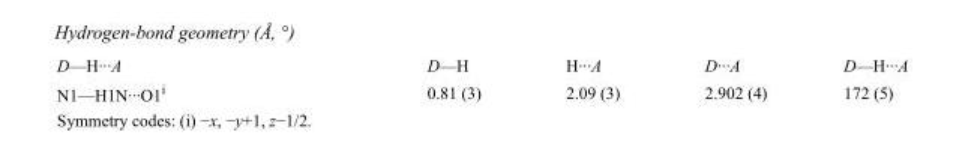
<table><tbody><tr><td>D—H···A</td><td>D—H</td><td>H···A</td><td>D···A</td><td>D—H···A</td></tr><tr><td>N1—H1N···O1<sup>i</sup></td><td>0.81 (3)</td><td>2.09 (3)</td><td>2.902 (4)</td><td>172 (5)</td></tr></tbody></table>